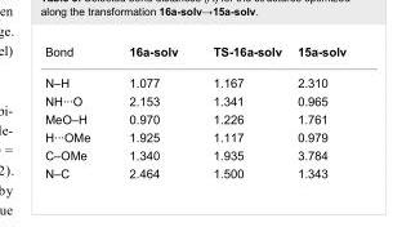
<table><tbody><tr><td>Bond</td><td>16a-solv</td><td>TS-16a-solv</td><td>15a-solv</td></tr><tr><td>N–H</td><td>1.077</td><td>1.167</td><td>2.310</td></tr><tr><td>NH···O</td><td>2.153</td><td>1.341</td><td>0.965</td></tr><tr><td>MeO–H</td><td>0.970</td><td>1.226</td><td>1.761</td></tr><tr><td>H···OMe</td><td>1.925</td><td>1.117</td><td>0.979</td></tr><tr><td>C–OMe</td><td>1.340</td><td>1.935</td><td>3.784</td></tr><tr><td>N–C</td><td>2.464</td><td>1.500</td><td>1.343</td></tr></tbody></table>